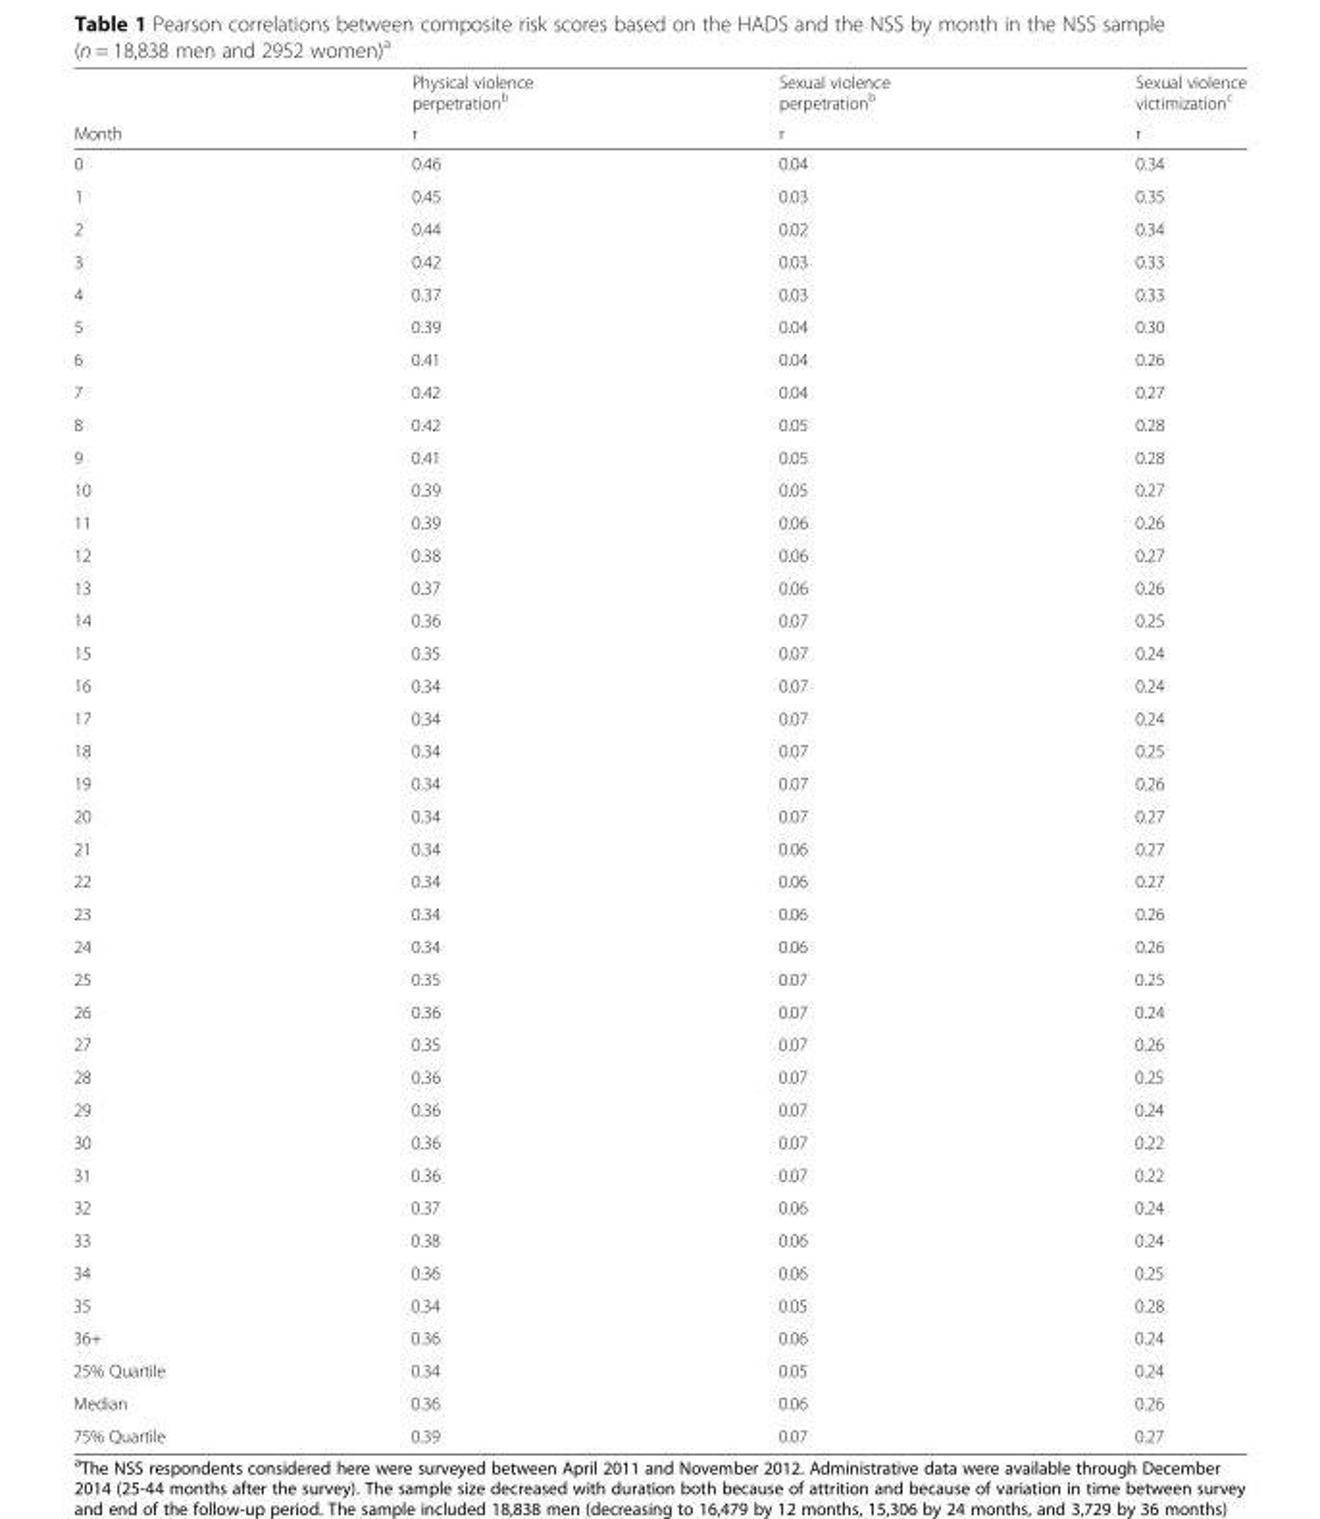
<table><thead><tr><td rowspan="2">Month</td><td rowspan="2">Physical violence perpetration<sup>b</sup> r</td><td rowspan="2">Sexual violence perpetration<sup>b</sup> r</td><td rowspan="2">Sexual violence victimization<sup>c</sup> r</td></tr><tr></tr></thead><tbody><tr><td>0</td><td>0.46</td><td>0.04</td><td>0.34</td></tr><tr><td>1</td><td>0.45</td><td>0.03</td><td>0.35</td></tr><tr><td>2</td><td>0.44</td><td>0.02</td><td>0.34</td></tr><tr><td>3</td><td>0.42</td><td>0.03</td><td>0.33</td></tr><tr><td>4</td><td>0.37</td><td>0.03</td><td>0.33</td></tr><tr><td>5</td><td>0.39</td><td>0.04</td><td>0.30</td></tr><tr><td>6</td><td>0.41</td><td>0.04</td><td>0.26</td></tr><tr><td>7</td><td>0.42</td><td>0.04</td><td>0.27</td></tr><tr><td>8</td><td>0.42</td><td>0.05</td><td>0.28</td></tr><tr><td>9</td><td>0.41</td><td>0.05</td><td>0.28</td></tr><tr><td>10</td><td>0.39</td><td>0.05</td><td>0.27</td></tr><tr><td>11</td><td>0.39</td><td>0.06</td><td>0.26</td></tr><tr><td>12</td><td>0.38</td><td>0.06</td><td>0.27</td></tr><tr><td>13</td><td>0.37</td><td>0.06</td><td>0.26</td></tr><tr><td>14</td><td>0.36</td><td>0.07</td><td>0.25</td></tr><tr><td>15</td><td>0.35</td><td>0.07</td><td>0.24</td></tr><tr><td>16</td><td>0.34</td><td>0.07</td><td>0.24</td></tr><tr><td>17</td><td>0.34</td><td>0.07</td><td>0.24</td></tr><tr><td>18</td><td>0.34</td><td>0.07</td><td>0.25</td></tr><tr><td>19</td><td>0.34</td><td>0.07</td><td>0.26</td></tr><tr><td>20</td><td>0.34</td><td>0.07</td><td>0.27</td></tr><tr><td>21</td><td>0.34</td><td>0.06</td><td>0.27</td></tr><tr><td>22</td><td>0.34</td><td>0.06</td><td>0.27</td></tr><tr><td>23</td><td>0.34</td><td>0.06</td><td>0.26</td></tr><tr><td>24</td><td>0.34</td><td>0.06</td><td>0.26</td></tr><tr><td>25</td><td>0.35</td><td>0.07</td><td>0.25</td></tr><tr><td>26</td><td>0.36</td><td>0.07</td><td>0.24</td></tr><tr><td>27</td><td>0.35</td><td>0.07</td><td>0.26</td></tr><tr><td>28</td><td>0.36</td><td>0.07</td><td>0.25</td></tr><tr><td>29</td><td>0.36</td><td>0.07</td><td>0.24</td></tr><tr><td>30</td><td>0.36</td><td>0.07</td><td>0.22</td></tr><tr><td>31</td><td>0.36</td><td>0.07</td><td>0.22</td></tr><tr><td>32</td><td>0.37</td><td>0.06</td><td>0.24</td></tr><tr><td>33</td><td>0.38</td><td>0.06</td><td>0.24</td></tr><tr><td>34</td><td>0.36</td><td>0.06</td><td>0.25</td></tr><tr><td>35</td><td>0.34</td><td>0.05</td><td>0.28</td></tr><tr><td>36+</td><td>0.36</td><td>0.06</td><td>0.24</td></tr><tr><td>25% Quartile</td><td>0.34</td><td>0.05</td><td>0.24</td></tr><tr><td>Median</td><td>0.36</td><td>0.06</td><td>0.26</td></tr><tr><td>75% Quartile</td><td>0.39</td><td>0.07</td><td>0.27</td></tr></tbody></table>